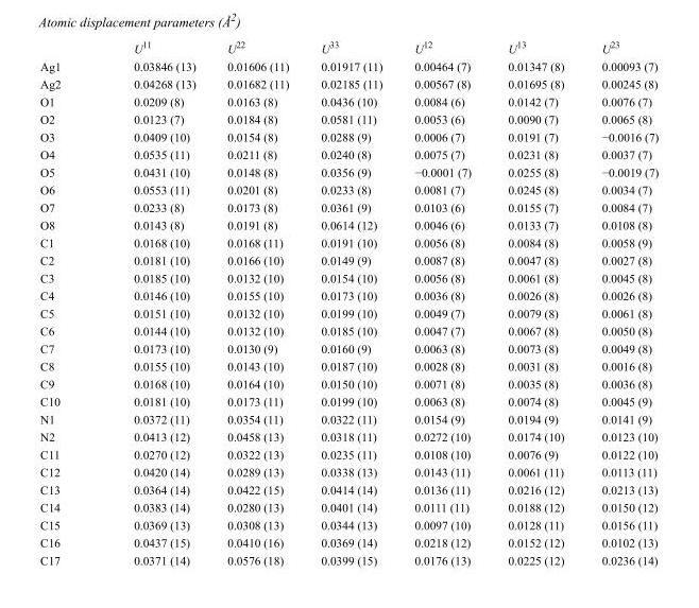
<table><thead><tr><td></td><td>U<sup>11</sup></td><td>U<sup>22</sup></td><td>U<sup>33</sup></td><td>U<sup>12</sup></td><td>U<sup>13</sup></td><td>U<sup>23</sup></td></tr></thead><tbody><tr><td>Ag1</td><td>0.03846 (13)</td><td>0.01606 (11)</td><td>0.01917 (11)</td><td>0.00464 (7)</td><td>0.01347 (8)</td><td>0.00093 (7)</td></tr><tr><td>Ag2</td><td>0.04268 (13)</td><td>0.01682 (11)</td><td>0.02185 (11)</td><td>0.00567 (8)</td><td>0.01695 (8)</td><td>0.00245 (8)</td></tr><tr><td>O1</td><td>0.0209 (8)</td><td>0.0163 (8)</td><td>0.0436 (10)</td><td>0.0084 (6)</td><td>0.0142 (7)</td><td>0.0076 (7)</td></tr><tr><td>O2</td><td>0.0123 (7)</td><td>0.0184 (8)</td><td>0.0581 (11)</td><td>0.0053 (6)</td><td>0.0090 (7)</td><td>0.0065 (8)</td></tr><tr><td>O3</td><td>0.0409 (10)</td><td>0.0154 (8)</td><td>0.0288 (9)</td><td>0.0006 (7)</td><td>0.0191 (7)</td><td>−0.0016 (7)</td></tr><tr><td>O4</td><td>0.0535 (11)</td><td>0.0211 (8)</td><td>0.0240 (8)</td><td>0.0075 (7)</td><td>0.0231 (8)</td><td>0.0037 (7)</td></tr><tr><td>O5</td><td>0.0431 (10)</td><td>0.0148 (8)</td><td>0.0356 (9)</td><td>−0.0001 (7)</td><td>0.0255 (8)</td><td>−0.0019 (7)</td></tr><tr><td>O6</td><td>0.0553 (11)</td><td>0.0201 (8)</td><td>0.0233 (8)</td><td>0.0081 (7)</td><td>0.0245 (8)</td><td>0.0034 (7)</td></tr><tr><td>O7</td><td>0.0233 (8)</td><td>0.0173 (8)</td><td>0.0361 (9)</td><td>0.0103 (6)</td><td>0.0155 (7)</td><td>0.0084 (7)</td></tr><tr><td>O8</td><td>0.0143 (8)</td><td>0.0191 (8)</td><td>0.0614 (12)</td><td>0.0046 (6)</td><td>0.0133 (7)</td><td>0.0108 (8)</td></tr><tr><td>C1</td><td>0.0168 (10)</td><td>0.0168 (11)</td><td>0.0191 (10)</td><td>0.0056 (8)</td><td>0.0084 (8)</td><td>0.0058 (9)</td></tr><tr><td>C2</td><td>0.0181 (10)</td><td>0.0166 (10)</td><td>0.0149 (9)</td><td>0.0087 (8)</td><td>0.0047 (8)</td><td>0.0027 (8)</td></tr><tr><td>C3</td><td>0.0185 (10)</td><td>0.0132 (10)</td><td>0.0154 (10)</td><td>0.0056 (8)</td><td>0.0061 (8)</td><td>0.0045 (8)</td></tr><tr><td>C4</td><td>0.0146 (10)</td><td>0.0155 (10)</td><td>0.0173 (10)</td><td>0.0036 (8)</td><td>0.0026 (8)</td><td>0.0026 (8)</td></tr><tr><td>C5</td><td>0.0151 (10)</td><td>0.0132 (10)</td><td>0.0199 (10)</td><td>0.0049 (7)</td><td>0.0079 (8)</td><td>0.0061 (8)</td></tr><tr><td>C6</td><td>0.0144 (10)</td><td>0.0132 (10)</td><td>0.0185 (10)</td><td>0.0047 (7)</td><td>0.0067 (8)</td><td>0.0050 (8)</td></tr><tr><td>C7</td><td>0.0173 (10)</td><td>0.0130 (9)</td><td>0.0160 (9)</td><td>0.0063 (8)</td><td>0.0073 (8)</td><td>0.0049 (8)</td></tr><tr><td>C8</td><td>0.0155 (10)</td><td>0.0143 (10)</td><td>0.0187 (10)</td><td>0.0028 (8)</td><td>0.0031 (8)</td><td>0.0016 (8)</td></tr><tr><td>C9</td><td>0.0168 (10)</td><td>0.0164 (10)</td><td>0.0150 (10)</td><td>0.0071 (8)</td><td>0.0035 (8)</td><td>0.0036 (8)</td></tr><tr><td>C10</td><td>0.0181 (10)</td><td>0.0173 (11)</td><td>0.0199 (10)</td><td>0.0063 (8)</td><td>0.0074 (8)</td><td>0.0045 (9)</td></tr><tr><td>N1</td><td>0.0372 (11)</td><td>0.0354 (11)</td><td>0.0322 (11)</td><td>0.0154 (9)</td><td>0.0194 (9)</td><td>0.0141 (9)</td></tr><tr><td>N2</td><td>0.0413 (12)</td><td>0.0458 (13)</td><td>0.0318 (11)</td><td>0.0272 (10)</td><td>0.0174 (10)</td><td>0.0123 (10)</td></tr><tr><td>C11</td><td>0.0270 (12)</td><td>0.0322 (13)</td><td>0.0235 (11)</td><td>0.0108 (10)</td><td>0.0076 (9)</td><td>0.0122 (10)</td></tr><tr><td>C12</td><td>0.0420 (14)</td><td>0.0289 (13)</td><td>0.0338 (13)</td><td>0.0143 (11)</td><td>0.0061 (11)</td><td>0.0113 (11)</td></tr><tr><td>C13</td><td>0.0364 (14)</td><td>0.0422 (15)</td><td>0.0414 (14)</td><td>0.0136 (11)</td><td>0.0216 (12)</td><td>0.0213 (13)</td></tr><tr><td>C14</td><td>0.0383 (14)</td><td>0.0280 (13)</td><td>0.0401 (14)</td><td>0.0111 (11)</td><td>0.0188 (12)</td><td>0.0150 (12)</td></tr><tr><td>C15</td><td>0.0369 (13)</td><td>0.0308 (13)</td><td>0.0344 (13)</td><td>0.0097 (10)</td><td>0.0128 (11)</td><td>0.0156 (11)</td></tr><tr><td>C16</td><td>0.0437 (15)</td><td>0.0410 (16)</td><td>0.0369 (14)</td><td>0.0218 (12)</td><td>0.0152 (12)</td><td>0.0102 (13)</td></tr><tr><td>C17</td><td>0.0371 (14)</td><td>0.0576 (18)</td><td>0.0399 (15)</td><td>0.0176 (13)</td><td>0.0225 (12)</td><td>0.0236 (14)</td></tr></tbody></table>